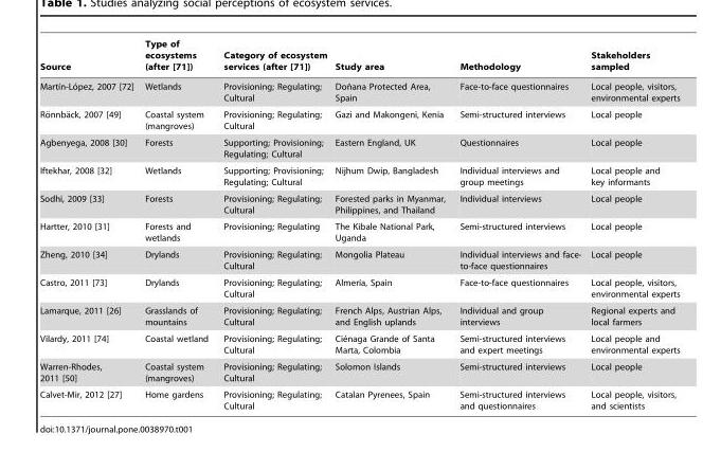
<table><thead><tr><td>Source</td><td>Type of ecosystems (after [71])</td><td>Category of ecosystem services (after [71])</td><td>Study area</td><td>Methodology</td><td>Stakeholders sampled</td></tr></thead><tbody><tr><td>Martı´n-Lo´pez, 2007 [72]</td><td>Wetlands</td><td>Provisioning; Regulating; Cultural</td><td>Don˜ana Protected Area, Spain</td><td>Face-to-face questionnaires</td><td>Local people, visitors, environmental experts</td></tr><tr><td>Ro¨nnba¨ck, 2007 [49]</td><td>Coastal system (mangroves)</td><td>Provisioning; Regulating; Cultural</td><td>Gazi and Makongeni, Kenia</td><td>Semi-structured interviews</td><td>Local people</td></tr><tr><td>Agbenyega, 2008 [30]</td><td>Forests</td><td>Supporting; Provisioning; Regulating; Cultural</td><td>Eastern England, UK</td><td>Questionnaires</td><td>Local people</td></tr><tr><td>Iftekhar, 2008 [32]</td><td>Wetlands</td><td>Supporting; Provisioning; Regulating; Cultural</td><td>Nijhum Dwip, Bangladesh</td><td>Individual interviews and group meetings</td><td>Local people and key informants</td></tr><tr><td>Sodhi, 2009 [33]</td><td>Forests</td><td>Provisioning; Regulating; Cultural</td><td>Forested parks in Myanmar, Philippines, and Thailand</td><td>Individual interviews</td><td>Local people</td></tr><tr><td>Hartter, 2010 [31]</td><td>Forests and wetlands</td><td>Provisioning; Regulating</td><td>The Kibale National Park, Uganda</td><td>Semi-structured interviews</td><td>Local people</td></tr><tr><td>Zheng, 2010 [34]</td><td>Drylands</td><td>Provisioning; Regulating; Cultural</td><td>Mongolia Plateau</td><td>Individual interviews and face- to-face questionnaires</td><td>Local people</td></tr><tr><td>Castro, 2011 [73]</td><td>Drylands</td><td>Provisioning; Regulating; Cultural</td><td>Almerı´a, Spain</td><td>Face-to-face questionnaires</td><td>Local people, visitors, environmental experts</td></tr><tr><td>Lamarque, 2011 [26]</td><td>Grasslands of mountains</td><td>Provisioning; Regulating; Cultural</td><td>French Alps, Austrian Alps, and English uplands</td><td>Individual and group interviews</td><td>Regional experts and local farmers</td></tr><tr><td>Vilardy, 2011 [74]</td><td>Coastal wetland</td><td>Provisioning; Regulating; Cultural</td><td>Cie´naga Grande of Santa Marta, Colombia</td><td>Semi-structured interviews and expert meetings</td><td>Local people and environmental experts</td></tr><tr><td>Warren-Rhodes, 2011 [50]</td><td>Coastal system (mangroves)</td><td>Provisioning; Regulating; Cultural</td><td>Solomon Islands</td><td>Semi-structured interviews</td><td>Local people</td></tr><tr><td>Calvet-Mir, 2012 [27]</td><td>Home gardens</td><td>Provisioning; Regulating; Cultural</td><td>Catalan Pyrenees, Spain</td><td>Semi-structured interviews and questionnaires</td><td>Local people, visitors, and scientists</td></tr></tbody></table>